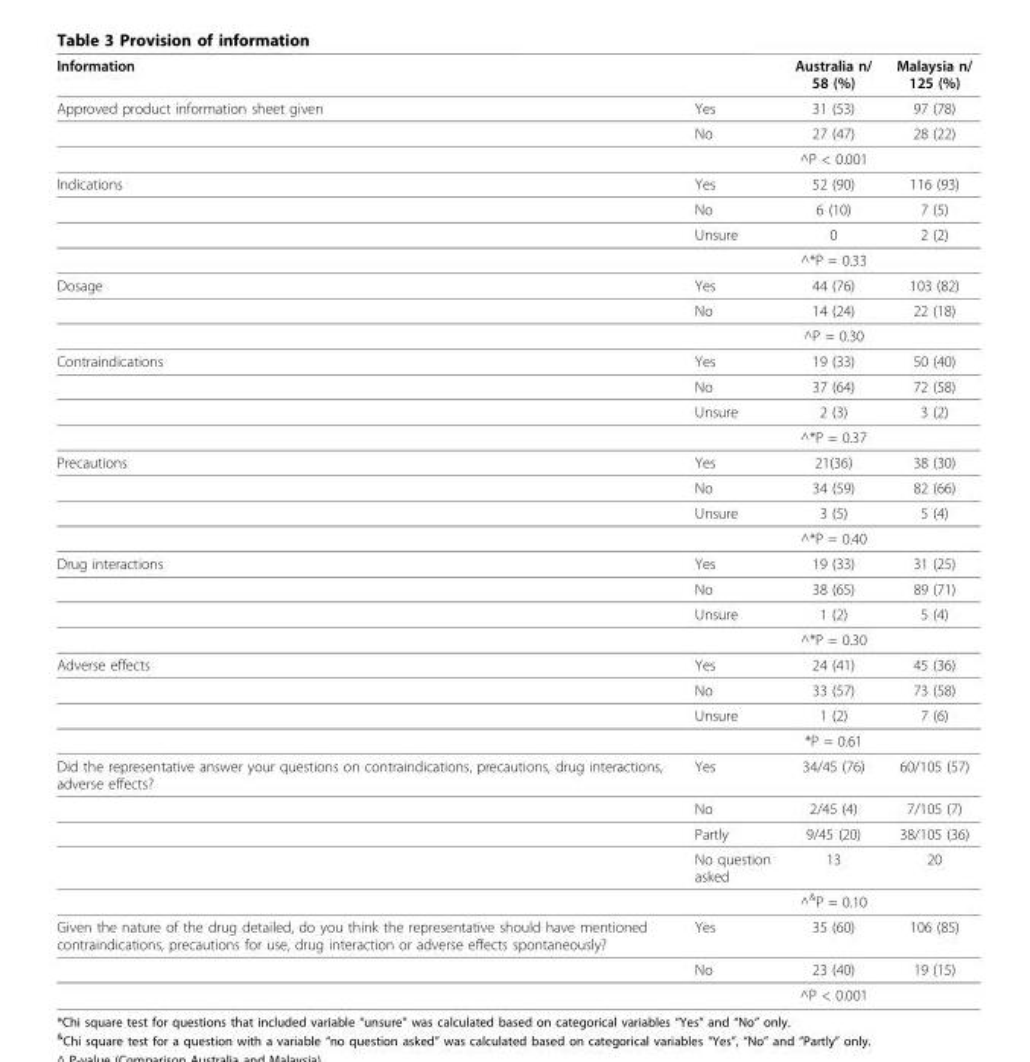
<table><thead><tr><td>Information</td><td></td><td>Australia n/ 58 (%)</td><td>Malaysia n/ 125 (%)</td></tr></thead><tbody><tr><td rowspan="3">Approved product information sheet given</td><td>Yes</td><td>31 (53)</td><td>97 (78)</td></tr><tr><td>No</td><td>27 (47)</td><td>28 (22)</td></tr><tr><td></td><td>^P &lt; 0.001</td><td></td></tr><tr><td rowspan="4">Indications</td><td>Yes</td><td>52 (90)</td><td>116 (93)</td></tr><tr><td>No</td><td>6 (10)</td><td>7 (5)</td></tr><tr><td>Unsure</td><td>0</td><td>2 (2)</td></tr><tr><td></td><td>^*P = 0.33</td><td></td></tr><tr><td rowspan="3">Dosage</td><td>Yes</td><td>44 (76)</td><td>103 (82)</td></tr><tr><td>No</td><td>14 (24)</td><td>22 (18)</td></tr><tr><td></td><td>^P = 0.30</td><td></td></tr><tr><td rowspan="4">Contraindications</td><td>Yes</td><td>19 (33)</td><td>50 (40)</td></tr><tr><td>No</td><td>37 (64)</td><td>72 (58)</td></tr><tr><td>Unsure</td><td>2 (3)</td><td>3 (2)</td></tr><tr><td></td><td>^*P = 0.37</td><td></td></tr><tr><td rowspan="4">Precautions</td><td>Yes</td><td>21(36)</td><td>38 (30)</td></tr><tr><td>No</td><td>34 (59)</td><td>82 (66)</td></tr><tr><td>Unsure</td><td>3 (5)</td><td>5 (4)</td></tr><tr><td></td><td>^*P = 0.40</td><td></td></tr><tr><td rowspan="4">Drug interactions</td><td>Yes</td><td>19 (33)</td><td>31 (25)</td></tr><tr><td>No</td><td>38 (65)</td><td>89 (71)</td></tr><tr><td>Unsure</td><td>1 (2)</td><td>5 (4)</td></tr><tr><td></td><td>^*P = 0.30</td><td></td></tr><tr><td rowspan="4">Adverse effects</td><td>Yes</td><td>24 (41)</td><td>45 (36)</td></tr><tr><td>No</td><td>33 (57)</td><td>73 (58)</td></tr><tr><td>Unsure</td><td>1 (2)</td><td>7 (6)</td></tr><tr><td></td><td>*P = 0.61</td><td></td></tr><tr><td rowspan="5">Did the representative answer your questions on contraindications, precautions, drug interactions, adverse effects?</td><td>Yes</td><td>34/45 (76)</td><td>60/105 (57)</td></tr><tr><td>No</td><td>2/45 (4)</td><td>7/105 (7)</td></tr><tr><td>Partly</td><td>9/45 (20)</td><td>38/105 (36)</td></tr><tr><td>No question asked</td><td>13</td><td>20</td></tr><tr><td></td><td>^&amp;P = 0.10</td><td></td></tr><tr><td rowspan="3">Given the nature of the drug detailed, do you think the representative should have mentioned contraindications, precautions for use, drug interaction or adverse effects spontaneously?</td><td>Yes</td><td>35 (60)</td><td>106 (85)</td></tr><tr><td>No</td><td>23 (40)</td><td>19 (15)</td></tr><tr><td></td><td>^P &lt; 0.001</td><td></td></tr></tbody></table>